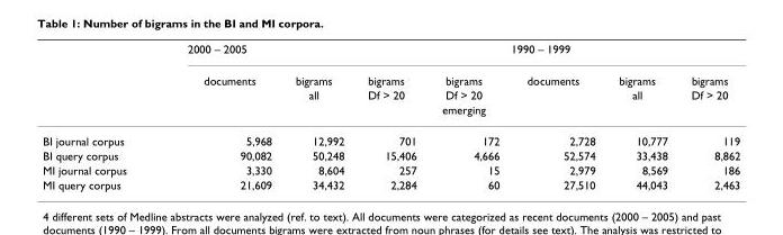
<table><thead><tr><td rowspan="4"></td><td colspan="4">2000 – 2005</td><td colspan="3">1990 – 1999</td></tr><tr><td rowspan="3">documents</td><td rowspan="3">bigrams all</td><td rowspan="3">bigrams Df &gt; 20</td><td rowspan="3">bigrams Df &gt; 20 emerging</td><td rowspan="3">documents</td><td rowspan="3">bigrams all</td><td rowspan="3">bigrams Df &gt; 20</td></tr><tr></tr><tr></tr></thead><tbody><tr><td>BI journal corpus</td><td>5,968</td><td>12,992</td><td>701</td><td>172</td><td>2,728</td><td>10,777</td><td>119</td></tr><tr><td>BI query corpus</td><td>90,082</td><td>50,248</td><td>15,406</td><td>4,666</td><td>52,574</td><td>33,438</td><td>8,862</td></tr><tr><td>MI journal corpus</td><td>3,330</td><td>8,604</td><td>257</td><td>15</td><td>2,979</td><td>8,569</td><td>186</td></tr><tr><td>MI query corpus</td><td>21,609</td><td>34,432</td><td>2,284</td><td>60</td><td>27,510</td><td>44,043</td><td>2,463</td></tr></tbody></table>